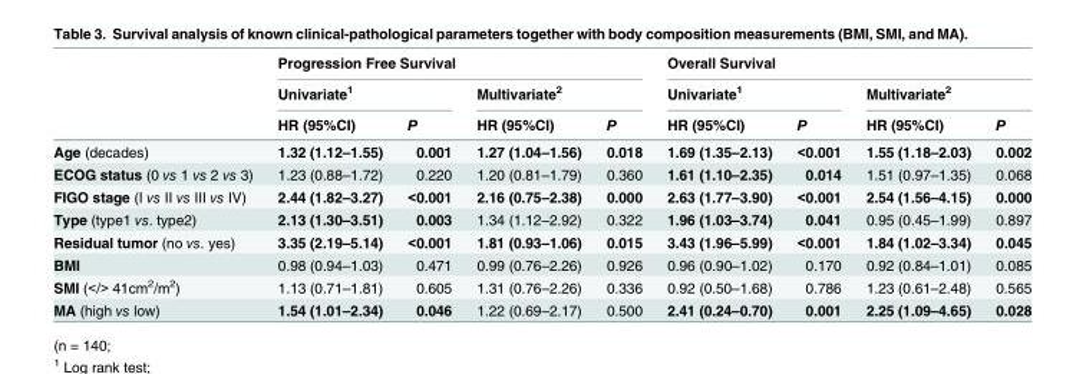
<table><thead><tr><td rowspan="3"></td><td colspan="4">Progression Free Survival</td><td colspan="4">Overall Survival</td></tr><tr><td colspan="2">Univariate<sup>1</sup></td><td colspan="2">Multivariate<sup>2</sup></td><td colspan="2">Univariate<sup>1</sup></td><td colspan="2">Multivariate<sup>2</sup></td></tr><tr><td>HR (95%CI)</td><td>P</td><td>HR (95%CI)</td><td>P</td><td>HR (95%CI)</td><td>P</td><td>HR (95%CI)</td><td>P</td></tr></thead><tbody><tr><td>Age (decades)</td><td>1.32 (1.12–1.55)</td><td>0.001</td><td>1.27 (1.04–1.56)</td><td>0.018</td><td>1.69 (1.35–2.13)</td><td>&lt;0.001</td><td>1.55 (1.18–2.03)</td><td>0.002</td></tr><tr><td>ECOG status (0 vs 1 vs 2 vs 3)</td><td>1.23 (0.88–1.72)</td><td>0.220</td><td>1.20 (0.81–1.79)</td><td>0.360</td><td>1.61 (1.10–2.35)</td><td>0.014</td><td>1.51 (0.97–1.35)</td><td>0.068</td></tr><tr><td>FIGO stage (I vs II vs III vs IV)</td><td>2.44 (1.82–3.27)</td><td>&lt;0.001</td><td>2.16 (0.75–2.38)</td><td>0.000</td><td>2.63 (1.77–3.90)</td><td>&lt;0.001</td><td>2.54 (1.56–4.15)</td><td>0.000</td></tr><tr><td>Type (type1 vs. type2)</td><td>2.13 (1.30–3.51)</td><td>0.003</td><td>1.34 (1.12–2.92)</td><td>0.322</td><td>1.96 (1.03–3.74)</td><td>0.041</td><td>0.95 (0.45–1.99)</td><td>0.897</td></tr><tr><td>Residual tumor (no vs. yes)</td><td>3.35 (2.19–5.14)</td><td>&lt;0.001</td><td>1.81 (0.93–1.06)</td><td>0.015</td><td>3.43 (1.96–5.99)</td><td>&lt;0.001</td><td>1.84 (1.02–3.34)</td><td>0.045</td></tr><tr><td>BMI</td><td>0.98 (0.94–1.03)</td><td>0.471</td><td>0.99 (0.76–2.26)</td><td>0.926</td><td>0.96 (0.90–1.02)</td><td>0.170</td><td>0.92 (0.84–1.01)</td><td>0.085</td></tr><tr><td>SMI (&lt;/&gt; 41cm<sup>2</sup>/m<sup>2</sup>)</td><td>1.13 (0.71–1.81)</td><td>0.605</td><td>1.31 (0.76–2.26)</td><td>0.336</td><td>0.92 (0.50–1.68)</td><td>0.786</td><td>1.23 (0.61–2.48)</td><td>0.565</td></tr><tr><td>MA (high vs low)</td><td>1.54 (1.01–2.34)</td><td>0.046</td><td>1.22 (0.69–2.17)</td><td>0.500</td><td>2.41 (0.24–0.70)</td><td>0.001</td><td>2.25 (1.09–4.65)</td><td>0.028</td></tr></tbody></table>